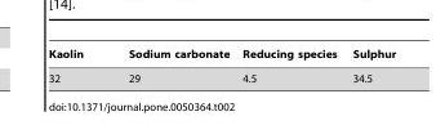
<table><thead><tr><td>Kaolin</td><td>Sodium carbonate</td><td>Reducing species</td><td>Sulphur</td></tr></thead><tbody><tr><td>32</td><td>29</td><td>4.5</td><td>34.5</td></tr></tbody></table>